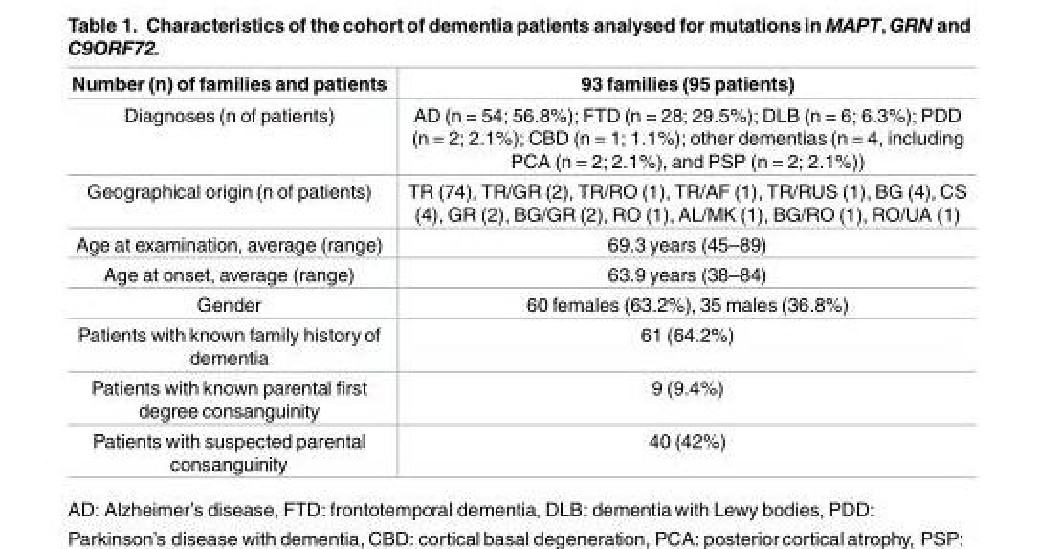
<table><thead><tr><td>Number (n) of families and patients</td><td>93 families (95 patients)</td></tr></thead><tbody><tr><td>Diagnoses (n of patients)</td><td>AD (n = 54; 56.8%); FTD (n = 28; 29.5%); DLB (n = 6; 6.3%); PDD (n = 2; 2.1%); CBD (n = 1; 1.1%); other dementias (n = 4, including PCA (n = 2; 2.1%), and PSP (n = 2; 2.1%))</td></tr><tr><td>Geographical origin (n of patients)</td><td>TR (74), TR/GR (2), TR/RO (1), TR/AF (1), TR/RUS (1), BG (4), CS (4), GR (2), BG/GR (2), RO (1), AL/MK (1), BG/RO (1), RO/UA (1)</td></tr><tr><td>Age at examination, average (range)</td><td>69.3 years (45–89)</td></tr><tr><td>Age at onset, average (range)</td><td>63.9 years (38–84)</td></tr><tr><td>Gender</td><td>60 females (63.2%), 35 males (36.8%)</td></tr><tr><td>Patients with known family history of dementia</td><td>61 (64.2%)</td></tr><tr><td>Patients with known parental first degree consanguinity</td><td>9 (9.4%)</td></tr><tr><td>Patients with suspected parental consanguinity</td><td>40 (42%)</td></tr></tbody></table>